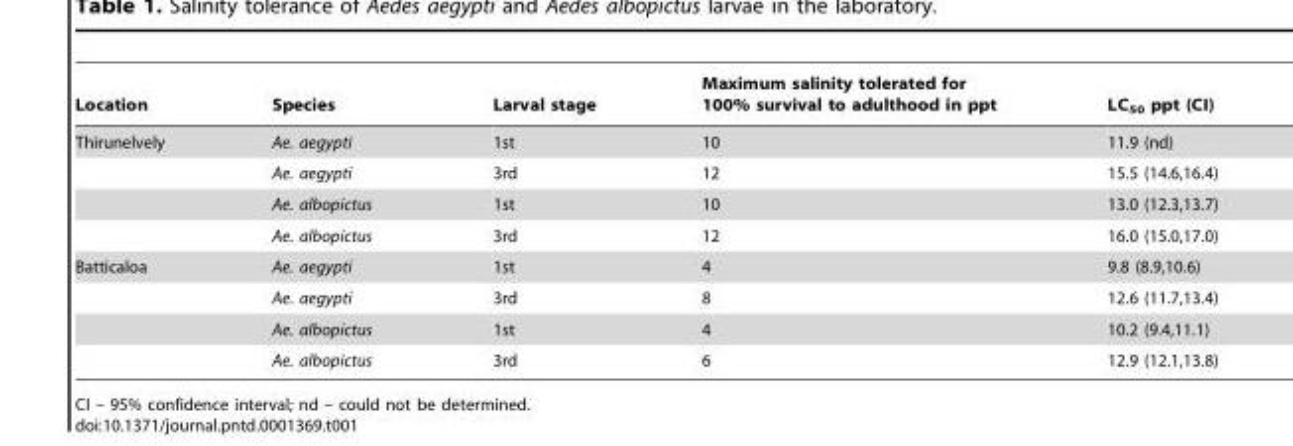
<table><thead><tr><td>Location</td><td>Species</td><td>Larval stage</td><td>Maximum salinity tolerated for 100% survival to adulthood in ppt</td><td>LC<sub>50</sub> ppt (CI)</td></tr></thead><tbody><tr><td rowspan="4">Thirunelvely</td><td>Ae. aegypti</td><td>1st</td><td>10</td><td>11.9 (nd)</td></tr><tr><td>Ae. aegypti</td><td>3rd</td><td>12</td><td>15.5 (14.6,16.4)</td></tr><tr><td>Ae. albopictus</td><td>1st</td><td>10</td><td>13.0 (12.3,13.7)</td></tr><tr><td>Ae. albopictus</td><td>3rd</td><td>12</td><td>16.0 (15.0,17.0)</td></tr><tr><td rowspan="4">Batticaloa</td><td>Ae. aegypti</td><td>1st</td><td>4</td><td>9.8 (8.9,10.6)</td></tr><tr><td>Ae. aegypti</td><td>3rd</td><td>8</td><td>12.6 (11.7,13.4)</td></tr><tr><td>Ae. albopictus</td><td>1st</td><td>4</td><td>10.2 (9.4,11.1)</td></tr><tr><td>Ae. albopictus</td><td>3rd</td><td>6</td><td>12.9 (12.1,13.8)</td></tr></tbody></table>